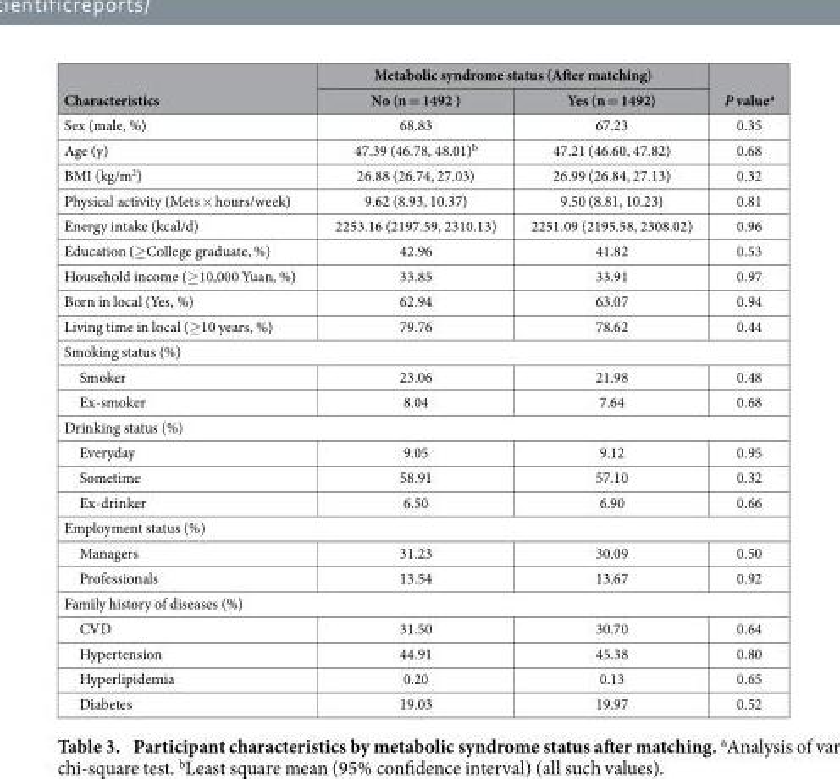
<table><thead><tr><td rowspan="2">Characteristics</td><td colspan="2">Metabolic syndrome status (After matching)</td><td rowspan="2">P value<sup>a</sup></td></tr><tr><td>No (n = 1492 )</td><td>Yes (n = 1492)</td></tr></thead><tbody><tr><td>Sex (male, %)</td><td>68.83</td><td>67.23</td><td>0.35</td></tr><tr><td>Age (y)</td><td>47.39 (46.78, 48.01)<sup>b</sup></td><td>47.21 (46.60, 47.82)</td><td>0.68</td></tr><tr><td>BMI (kg/m<sup>2</sup>)</td><td>26.88 (26.74, 27.03)</td><td>26.99 (26.84, 27.13)</td><td>0.32</td></tr><tr><td>Physical activity (Mets × hours/week)</td><td>9.62 (8.93, 10.37)</td><td>9.50 (8.81, 10.23)</td><td>0.81</td></tr><tr><td>Energy intake (kcal/d)</td><td>2253.16 (2197.59, 2310.13)</td><td>2251.09 (2195.58, 2308.02)</td><td>0.96</td></tr><tr><td>Education (≥ College graduate, %)</td><td>42.96</td><td>41.82</td><td>0.53</td></tr><tr><td>Household income (≥ 10,000 Yuan, %)</td><td>33.85</td><td>33.91</td><td>0.97</td></tr><tr><td>Born in local (Yes, %)</td><td>62.94</td><td>63.07</td><td>0.94</td></tr><tr><td>Living time in local (≥ 10 years, %)</td><td>79.76</td><td>78.62</td><td>0.44</td></tr><tr><td colspan="4">Smoking status (%)</td></tr><tr><td>Smoker</td><td>23.06</td><td>21.98</td><td>0.48</td></tr><tr><td>Ex-smoker</td><td>8.04</td><td>7.64</td><td>0.68</td></tr><tr><td colspan="4">Drinking status (%)</td></tr><tr><td>Everyday</td><td>9.05</td><td>9.12</td><td>0.95</td></tr><tr><td>Sometime</td><td>58.91</td><td>57.10</td><td>0.32</td></tr><tr><td>Ex-drinker</td><td>6.50</td><td>6.90</td><td>0.66</td></tr><tr><td colspan="4">Employment status (%)</td></tr><tr><td>Managers</td><td>31.23</td><td>30.09</td><td>0.50</td></tr><tr><td>Professionals</td><td>13.54</td><td>13.67</td><td>0.92</td></tr><tr><td colspan="4">Family history of diseases (%)</td></tr><tr><td>CVD</td><td>31.50</td><td>30.70</td><td>0.64</td></tr><tr><td>Hypertension</td><td>44.91</td><td>45.38</td><td>0.80</td></tr><tr><td>Hyperlipidemia</td><td>0.20</td><td>0.13</td><td>0.65</td></tr><tr><td>Diabetes</td><td>19.03</td><td>19.97</td><td>0.52</td></tr></tbody></table>